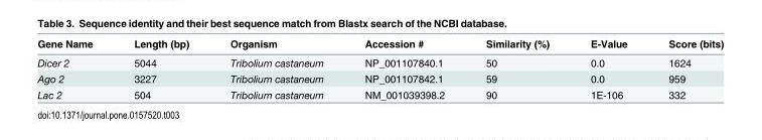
<table><thead><tr><td>Gene Name</td><td>Length (bp)</td><td>Organism</td><td>Accession #</td><td>Similarity (%)</td><td>E-Value</td><td>Score (bits)</td></tr></thead><tbody><tr><td>Dicer 2</td><td>5044</td><td>Tribolium castaneum</td><td>NP_001107840.1</td><td>50</td><td>0.0</td><td>1624</td></tr><tr><td>Ago 2</td><td>3227</td><td>Tribolium castaneum</td><td>NP_001107842.1</td><td>59</td><td>0.0</td><td>959</td></tr><tr><td>Lac 2</td><td>504</td><td>Tribolium castaneum</td><td>NM_001039398.2</td><td>90</td><td>1E-106</td><td>332</td></tr></tbody></table>